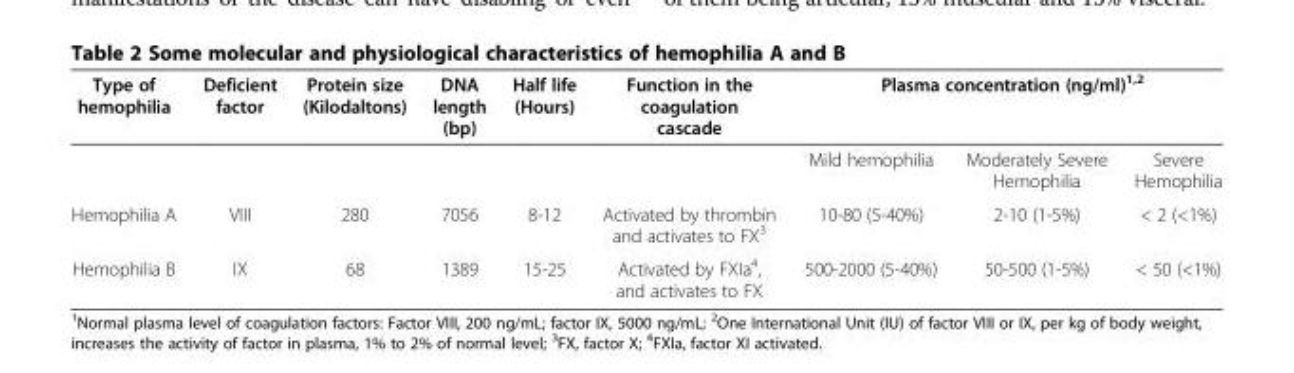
<table><thead><tr><td rowspan="2">Type of hemophilia</td><td rowspan="2">Deficient factor</td><td rowspan="2">Protein size (Kilodaltons)</td><td rowspan="2">DNA length (bp)</td><td rowspan="2">Half life (Hours)</td><td rowspan="2">Function in the coagulation cascade</td><td colspan="3">Plasma concentration (ng/ml)<sup>1,2</sup></td></tr><tr><td>Mild hemophilia</td><td>Moderately Severe Hemophilia</td><td>Severe Hemophilia</td></tr></thead><tbody><tr><td>Hemophilia A</td><td>VIII</td><td>280</td><td>7056</td><td>8-12</td><td>Activated by thrombin and activates to FX<sup>3</sup></td><td>10-80 (5-40%)</td><td>2-10 (1-5%)</td><td>&lt; 2 (&lt;1%)</td></tr><tr><td>Hemophilia B</td><td>IX</td><td>68</td><td>1389</td><td>15-25</td><td>Activated by FXIa<sup>4</sup>, and activates to FX</td><td>500-2000 (5-40%)</td><td>50-500 (1-5%)</td><td>&lt; 50 (&lt;1%)</td></tr></tbody></table>